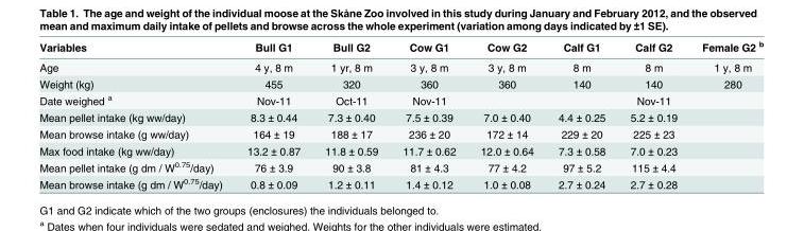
<table><thead><tr><td>Variables</td><td>Bull G1</td><td>Bull G2</td><td>Cow G1</td><td>Cow G2</td><td>Calf G1</td><td>Calf G2</td><td>Female G2 <sup>b</sup></td></tr></thead><tbody><tr><td>Age</td><td>4 y, 8 m</td><td>1 yr, 8 m</td><td>3 y, 8 m</td><td>3 y, 8 m</td><td>8 m</td><td>8 m</td><td>1 y, 8 m</td></tr><tr><td>Weight (kg)</td><td>455</td><td>320</td><td>360</td><td>360</td><td>140</td><td>140</td><td>280</td></tr><tr><td>Date weighed <sup>a</sup></td><td>Nov-11</td><td>Oct-11</td><td>Nov-11</td><td></td><td></td><td>Nov-11</td><td></td></tr><tr><td>Mean pellet intake (kg ww/day)</td><td>8.3 ± 0.44</td><td>7.3 ± 0.40</td><td>7.5 ± 0.39</td><td>7.0 ± 0.40</td><td>4.4 ± 0.25</td><td>5.2 ± 0.19</td><td></td></tr><tr><td>Mean browse intake (g ww/day)</td><td>164 ± 19</td><td>188 ± 17</td><td>236 ± 20</td><td>172 ± 14</td><td>229 ± 20</td><td>225 ± 23</td><td></td></tr><tr><td>Max food intake (kg ww/day)</td><td>13.2 ± 0.87</td><td>11.8 ± 0.59</td><td>11.7 ± 0.62</td><td>12.0 ± 0.64</td><td>7.3 ± 0.58</td><td>7.0 ± 0.23</td><td></td></tr><tr><td>Mean pellet intake (g dm / W<sup>0.75</sup>/day)</td><td>76 ± 3.9</td><td>90 ± 3.8</td><td>81 ± 4.3</td><td>77 ± 4.2</td><td>97 ± 5.2</td><td>115 ± 4.4</td><td></td></tr><tr><td>Mean browse intake (g dm / W<sup>0.75</sup>/day)</td><td>0.8 ± 0.09</td><td>1.2 ± 0.11</td><td>1.4 ± 0.12</td><td>1.0 ± 0.08</td><td>2.7 ± 0.24</td><td>2.7 ± 0.28</td><td></td></tr></tbody></table>